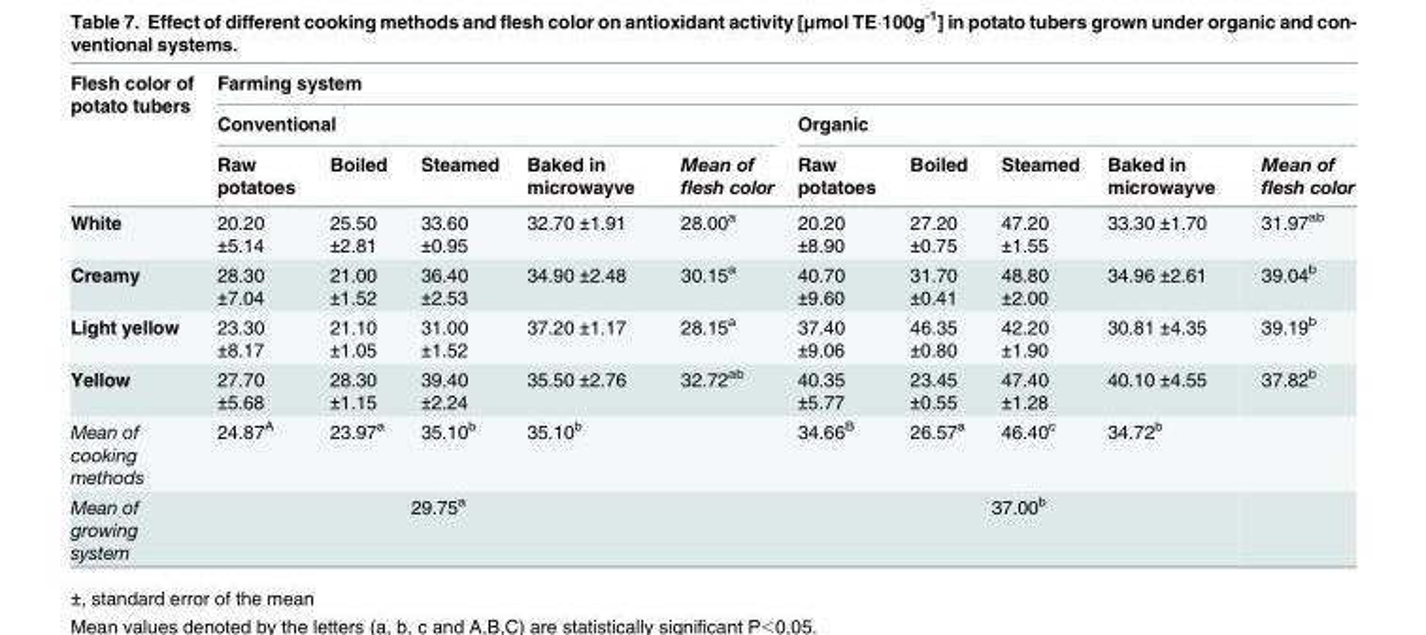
<table><thead><tr><td rowspan="3">Flesh color of potato tubers</td><td colspan="10">Farming system</td></tr><tr><td colspan="5">Conventional</td><td colspan="5">Organic</td></tr><tr><td>Raw potatoes</td><td>Boiled</td><td>Steamed</td><td>Baked in microwayve</td><td>Mean of flesh color</td><td>Raw potatoes</td><td>Boiled</td><td>Steamed</td><td>Baked in microwayve</td><td>Mean of flesh color</td></tr></thead><tbody><tr><td>White</td><td>20.20 ±5.14</td><td>25.50 ±2.81</td><td>33.60 ±0.95</td><td>32.70 ±1.91</td><td>28.00<sup>a</sup></td><td>20.20 ±8.90</td><td>27.20 ±0.75</td><td>47.20 ±1.55</td><td>33.30 ±1.70</td><td>31.97<sup>ab</sup></td></tr><tr><td>Creamy</td><td>28.30 ±7.04</td><td>21.00 ±1.52</td><td>36.40 ±2.53</td><td>34.90 ±2.48</td><td>30.15<sup>a</sup></td><td>40.70 ±9.60</td><td>31.70 ±0.41</td><td>48.80 ±2.00</td><td>34.96 ±2.61</td><td>39.04<sup>b</sup></td></tr><tr><td>Light yellow</td><td>23.30 ±8.17</td><td>21.10 ±1.05</td><td>31.00 ±1.52</td><td>37.20 ±1.17</td><td>28.15<sup>a</sup></td><td>37.40 ±9.06</td><td>46.35 ±0.80</td><td>42.20 ±1.90</td><td>30.81 ±4.35</td><td>39.19<sup>b</sup></td></tr><tr><td>Yellow</td><td>27.70 ±5.68</td><td>28.30 ±1.15</td><td>39.40 ±2.24</td><td>35.50 ±2.76</td><td>32.72<sup>ab</sup></td><td>40.35 ±5.77</td><td>23.45 ±0.55</td><td>47.40 ±1.28</td><td>40.10 ±4.55</td><td>37.82<sup>b</sup></td></tr><tr><td>Mean of cooking methods</td><td>24.87<sup>A</sup></td><td>23.97<sup>a</sup></td><td>35.10<sup>b</sup></td><td>35.10<sup>b</sup></td><td></td><td>34.66<sup>B</sup></td><td>26.57<sup>a</sup></td><td>46.40<sup>c</sup></td><td>34.72<sup>b</sup></td><td></td></tr><tr><td>Mean of growing system</td><td colspan="4">29.75<sup>a</sup></td><td></td><td colspan="4">37.00<sup>b</sup></td><td></td></tr></tbody></table>